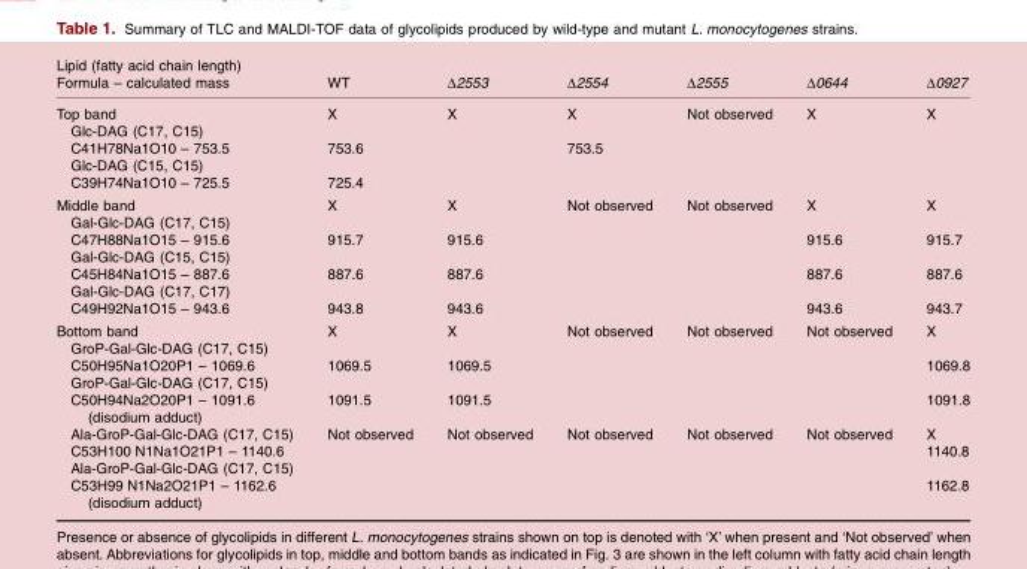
<table><thead><tr><td>Lipid (fatty acid chain length) Formula – calculated mass</td><td>WT</td><td>Δ2553</td><td>Δ2554</td><td>Δ2555</td><td>Δ0644</td><td>Δ0927</td></tr></thead><tbody><tr><td>Top band</td><td>X</td><td>X</td><td>X</td><td>Not observed</td><td>X</td><td>X</td></tr><tr><td colspan="7">Glc-DAG (C17, C15)</td></tr><tr><td>C41H78Na1O10 – 753.5</td><td>753.6</td><td></td><td>753.5</td><td></td><td></td><td></td></tr><tr><td colspan="7">Glc-DAG (C15, C15)</td></tr><tr><td>C39H74Na1O10 – 725.5</td><td>725.4</td><td></td><td></td><td></td><td></td><td></td></tr><tr><td>Middle band</td><td>X</td><td>X</td><td>Not observed</td><td>Not observed</td><td>X</td><td>X</td></tr><tr><td colspan="7">Gal-Glc-DAG (C17, C15)</td></tr><tr><td>C47H88Na1O15 – 915.6</td><td>915.7</td><td>915.6</td><td></td><td></td><td>915.6</td><td>915.7</td></tr><tr><td colspan="7">Gal-Glc-DAG (C15, C15)</td></tr><tr><td>C45H84Na1O15 – 887.6</td><td>887.6</td><td>887.6</td><td></td><td></td><td>887.6</td><td>887.6</td></tr><tr><td colspan="7">Gal-Glc-DAG (C17, C17)</td></tr><tr><td>C49H92Na1O15 – 943.6</td><td>943.8</td><td>943.6</td><td></td><td></td><td>943.6</td><td>943.7</td></tr><tr><td>Bottom band</td><td>X</td><td>X</td><td>Not observed</td><td>Not observed</td><td>Not observed</td><td>X</td></tr><tr><td colspan="7">GroP-Gal-Glc-DAG (C17, C15)</td></tr><tr><td>C50H95Na1O20P1 – 1069.6</td><td>1069.5</td><td>1069.5</td><td></td><td></td><td></td><td>1069.8</td></tr><tr><td colspan="7">GroP-Gal-Glc-DAG (C17, C15)</td></tr><tr><td>C50H94Na2O20P1 – 1091.6 (disodium adduct)</td><td>1091.5</td><td>1091.5</td><td></td><td></td><td></td><td>1091.8</td></tr><tr><td>Ala-GroP-Gal-Glc-DAG (C17, C15)</td><td>Not observed</td><td>Not observed</td><td>Not observed</td><td>Not observed</td><td>Not observed</td><td>X</td></tr><tr><td>C53H100 N1Na1O21P1 – 1140.6</td><td></td><td></td><td></td><td></td><td></td><td>1140.8</td></tr><tr><td colspan="7">Ala-GroP-Gal-Glc-DAG (C17, C15)</td></tr><tr><td>C53H99 N1Na2O21P1 – 1162.6 (disodium adduct)</td><td></td><td></td><td></td><td></td><td></td><td>1162.8</td></tr></tbody></table>